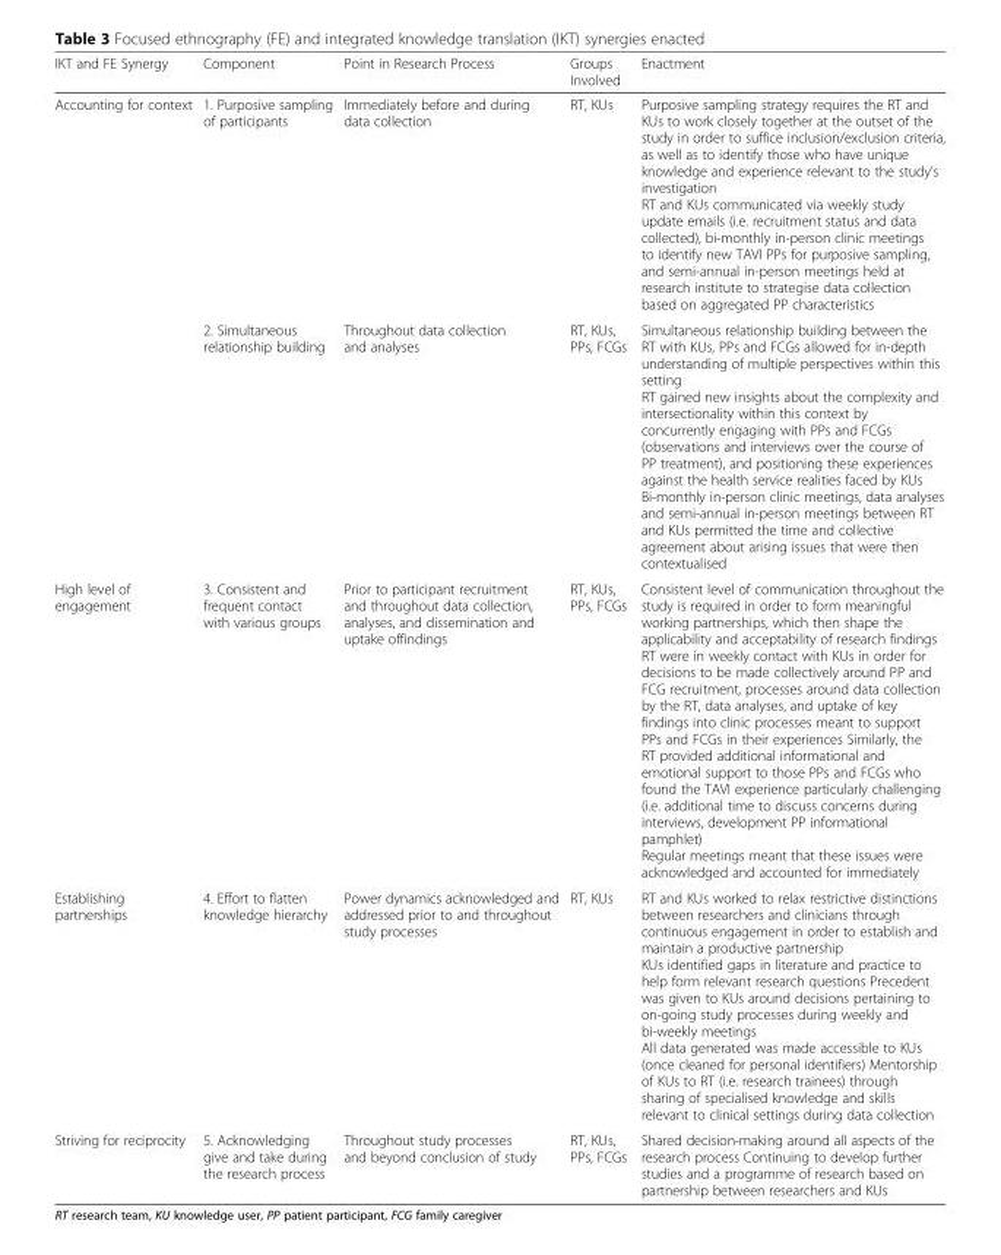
<table><thead><tr><td>IKT and FE Synergy</td><td>Component</td><td>Point in Research Process</td><td>Groups Involved</td><td>Enactment</td></tr></thead><tbody><tr><td rowspan="2">Accounting for context</td><td>1. Purposive sampling of participants</td><td>Immediately before and during data collection</td><td>RT, KUs</td><td>Purposive sampling strategy requires the RT and KUs to work closely together at the outset of the study in order to suffice inclusion/exclusion criteria, as well as to identify those who have unique knowledge and experience relevant to the study’s investigation RT and KUs communicated via weekly study update emails (i.e. recruitment status and data collected), bi-monthly in-person clinic meetings to identify new TAVI PPs for purposive sampling, and semi-annual in-person meetings held at research institute to strategise data collection based on aggregated PP characteristics</td></tr><tr><td>2. Simultaneous relationship building</td><td>Throughout data collection and analyses</td><td>RT, KUs, PPs, FCGs</td><td>Simultaneous relationship building between the RT with KUs, PPs and FCGs allowed for in-depth understanding of multiple perspectives within this setting RT gained new insights about the complexity and intersectionality within this context by concurrently engaging with PPs and FCGs (observations and interviews over the course of PP treatment), and positioning these experiences against the health service realities faced by KUs Bi-monthly in-person clinic meetings, data analyses and semi-annual in-person meetings between RT and KUs permitted the time and collective agreement about arising issues that were then contextualised</td></tr><tr><td>High level of engagement</td><td>3. Consistent and frequent contact with various groups</td><td>Prior to participant recruitment and throughout data collection, analyses, and dissemination and uptake offindings</td><td>RT, KUs, PPs, FCGs</td><td>Consistent level of communication throughout the study is required in order to form meaningful working partnerships, which then shape the applicability and acceptability of research findings RT were in weekly contact with KUs in order for decisions to be made collectively around PP and FCG recruitment, processes around data collection by the RT, data analyses, and uptake of key findings into clinic processes meant to support PPs and FCGs in their experiences Similarly, the RT provided additional informational and emotional support to those PPs and FCGs who found the TAVI experience particularly challenging (i.e. additional time to discuss concerns during interviews, development PP informational pamphlet) Regular meetings meant that these issues were acknowledged and accounted for immediately</td></tr><tr><td>Establishing partnerships</td><td>4. Effort to flatten knowledge hierarchy</td><td>Power dynamics acknowledged and addressed prior to and throughout study processes</td><td>RT, KUs</td><td>RT and KUs worked to relax restrictive distinctions between researchers and clinicians through continuous engagement in order to establish and maintain a productive partnership KUs identified gaps in literature and practice to help form relevant research questions Precedent was given to KUs around decisions pertaining to on-going study processes during weekly and bi-weekly meetings All data generated was made accessible to KUs (once cleaned for personal identifiers) Mentorship of KUs to RT (i.e. research trainees) through sharing of specialised knowledge and skills relevant to clinical settings during data collection</td></tr><tr><td>Striving for reciprocity</td><td>5. Acknowledging give and take during the research process</td><td>Throughout study processes and beyond conclusion of study</td><td>RT, KUs, PPs, FCGs</td><td>Shared decision-making around all aspects of the research process Continuing to develop further studies and a programme of research based on partnership between researchers and KUs</td></tr></tbody></table>